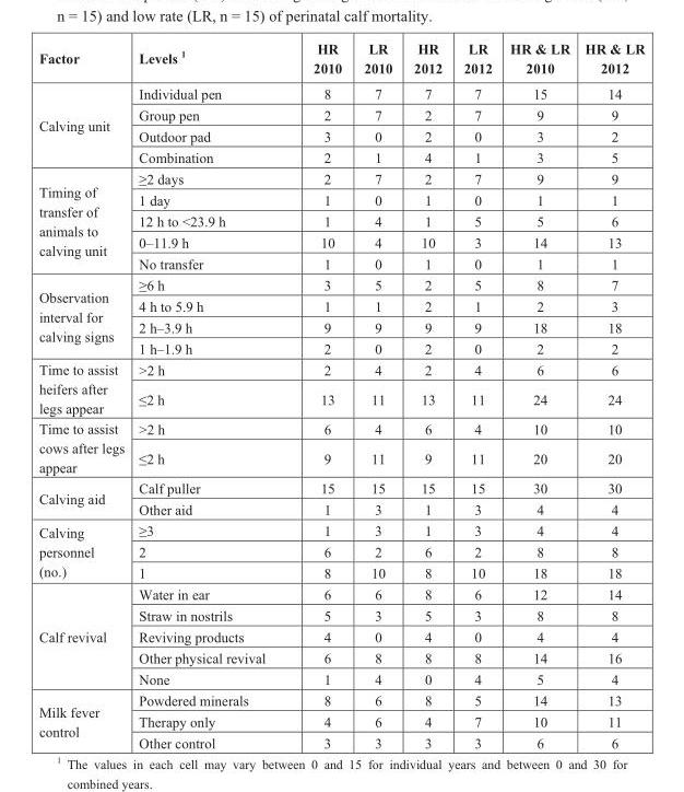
<table><thead><tr><td>Factor</td><td>Levels <sup>1</sup></td><td>HR 2010</td><td>LR 2010</td><td>HR 2012</td><td>LR 2012</td><td>HR &amp; LR 2010</td><td>HR &amp; LR 2012</td></tr></thead><tbody><tr><td rowspan="4">Calving unit</td><td>Individual pen</td><td>8</td><td>7</td><td>7</td><td>7</td><td>15</td><td>14</td></tr><tr><td>Group pen</td><td>2</td><td>7</td><td>2</td><td>7</td><td>9</td><td>9</td></tr><tr><td>Outdoor pad</td><td>3</td><td>0</td><td>2</td><td>0</td><td>3</td><td>2</td></tr><tr><td>Combination</td><td>2</td><td>1</td><td>4</td><td>1</td><td>3</td><td>5</td></tr><tr><td rowspan="5">Timing of transfer of animals to calving unit</td><td>≥2 days</td><td>2</td><td>7</td><td>2</td><td>7</td><td>9</td><td>9</td></tr><tr><td>1 day</td><td>1</td><td>0</td><td>1</td><td>0</td><td>1</td><td>1</td></tr><tr><td>12 h to &lt;23.9 h</td><td>1</td><td>4</td><td>1</td><td>5</td><td>5</td><td>6</td></tr><tr><td>0–11.9 h</td><td>10</td><td>4</td><td>10</td><td>3</td><td>14</td><td>13</td></tr><tr><td>No transfer</td><td>1</td><td>0</td><td>1</td><td>0</td><td>1</td><td>1</td></tr><tr><td rowspan="4">Observation interval for calving signs</td><td>≥6 h</td><td>3</td><td>5</td><td>2</td><td>5</td><td>8</td><td>7</td></tr><tr><td>4 h to 5.9 h</td><td>1</td><td>1</td><td>2</td><td>1</td><td>2</td><td>3</td></tr><tr><td>2 h–3.9 h</td><td>9</td><td>9</td><td>9</td><td>9</td><td>18</td><td>18</td></tr><tr><td>1 h–1.9 h</td><td>2</td><td>0</td><td>2</td><td>0</td><td>2</td><td>2</td></tr><tr><td rowspan="2">Time to assist heifers after legs appear</td><td>&gt;2 h</td><td>2</td><td>4</td><td>2</td><td>4</td><td>6</td><td>6</td></tr><tr><td>≤2 h</td><td>13</td><td>11</td><td>13</td><td>11</td><td>24</td><td>24</td></tr><tr><td rowspan="2">Time to assist cows after legs appear</td><td>&gt;2 h</td><td>6</td><td>4</td><td>6</td><td>4</td><td>10</td><td>10</td></tr><tr><td>≤2 h</td><td>9</td><td>11</td><td>9</td><td>11</td><td>20</td><td>20</td></tr><tr><td rowspan="2">Calving aid</td><td>Calf puller</td><td>15</td><td>15</td><td>15</td><td>15</td><td>30</td><td>30</td></tr><tr><td>Other aid</td><td>1</td><td>3</td><td>1</td><td>3</td><td>4</td><td>4</td></tr><tr><td rowspan="3">Calving personnel (no.)</td><td>≥3</td><td>1</td><td>3</td><td>1</td><td>3</td><td>4</td><td>4</td></tr><tr><td>2</td><td>6</td><td>2</td><td>6</td><td>2</td><td>8</td><td>8</td></tr><tr><td>1</td><td>8</td><td>10</td><td>8</td><td>10</td><td>18</td><td>18</td></tr><tr><td rowspan="5">Calf revival</td><td>Water in ear</td><td>6</td><td>6</td><td>8</td><td>6</td><td>12</td><td>14</td></tr><tr><td>Straw in nostrils</td><td>5</td><td>3</td><td>5</td><td>3</td><td>8</td><td>8</td></tr><tr><td>Reviving products</td><td>4</td><td>0</td><td>4</td><td>0</td><td>4</td><td>4</td></tr><tr><td>Other physical revival</td><td>6</td><td>8</td><td>8</td><td>8</td><td>14</td><td>16</td></tr><tr><td>None</td><td>1</td><td>4</td><td>0</td><td>4</td><td>5</td><td>4</td></tr><tr><td rowspan="3">Milk fever control</td><td>Powdered minerals</td><td>8</td><td>6</td><td>8</td><td>5</td><td>14</td><td>13</td></tr><tr><td>Therapy only</td><td>4</td><td>6</td><td>4</td><td>7</td><td>10</td><td>11</td></tr><tr><td>Other control</td><td>3</td><td>3</td><td>3</td><td>3</td><td>6</td><td>6</td></tr></tbody></table>